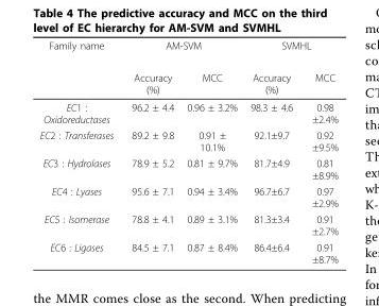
<table><thead><tr><td rowspan="2">Family name</td><td colspan="2">AM-SVM</td><td colspan="2">SVMHL</td></tr><tr><td>Accuracy (%)</td><td>MCC</td><td>Accuracy (%)</td><td>MCC</td></tr></thead><tbody><tr><td>EC1 : Oxidoreductases</td><td>96.2 ± 4.4</td><td>0.96 ± 3.2%</td><td>98.3 ± 4.6</td><td>0.98 ±2.4%</td></tr><tr><td>EC2 : Transferases</td><td>89.2 ± 9.8</td><td>0.91 ± 10.1%</td><td>92.1±9.7</td><td>0.92 ±9.5%</td></tr><tr><td>EC3 : Hydrolases</td><td>78.9 ± 5.2</td><td>0.81 ± 9.7%</td><td>81.7±4.9</td><td>0.81 ±8.9%</td></tr><tr><td>EC4 : Lyases</td><td>95.6 ± 7.1</td><td>0.94 ± 3.4%</td><td>96.7±6.7</td><td>0.97 ±2.9%</td></tr><tr><td>EC5 : Isomerase</td><td>78.8 ± 4.1</td><td>0.89 ± 3.1%</td><td>81.3±3.4</td><td>0.91 ±2.7%</td></tr><tr><td>EC6 : Ligases</td><td>84.5 ± 7.1</td><td>0.87 ± 8.4%</td><td>86.4±6.4</td><td>0.91 ±8.7%</td></tr></tbody></table>